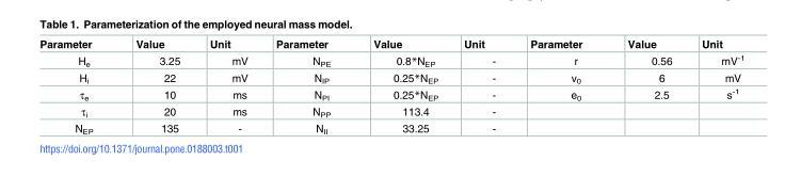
<table><thead><tr><td>Parameter</td><td>Value</td><td>Unit</td><td>Parameter</td><td>Value</td><td>Unit</td><td>Parameter</td><td>Value</td><td>Unit</td></tr></thead><tbody><tr><td>H<sub>e</sub></td><td>3.25</td><td>mV</td><td>N<sub>PE</sub></td><td>0.8*N<sub>EP</sub></td><td>-</td><td>r</td><td>0.56</td><td>mV<sup>-1</sup></td></tr><tr><td>H<sub>i</sub></td><td>22</td><td>mV</td><td>N<sub>IP</sub></td><td>0.25*N<sub>EP</sub></td><td>-</td><td>v<sub>0</sub></td><td>6</td><td>mV</td></tr><tr><td>τ<sub>e</sub></td><td>10</td><td>ms</td><td>N<sub>PI</sub></td><td>0.25*N<sub>EP</sub></td><td>-</td><td>e<sub>0</sub></td><td>2.5</td><td>s<sup>-1</sup></td></tr><tr><td>τ<sub>i</sub></td><td>20</td><td>ms</td><td>N<sub>PP</sub></td><td>113.4</td><td>-</td><td></td><td></td><td></td></tr><tr><td>N<sub>EP</sub></td><td>135</td><td>-</td><td>N<sub>II</sub></td><td>33.25</td><td>-</td><td></td><td></td><td></td></tr></tbody></table>